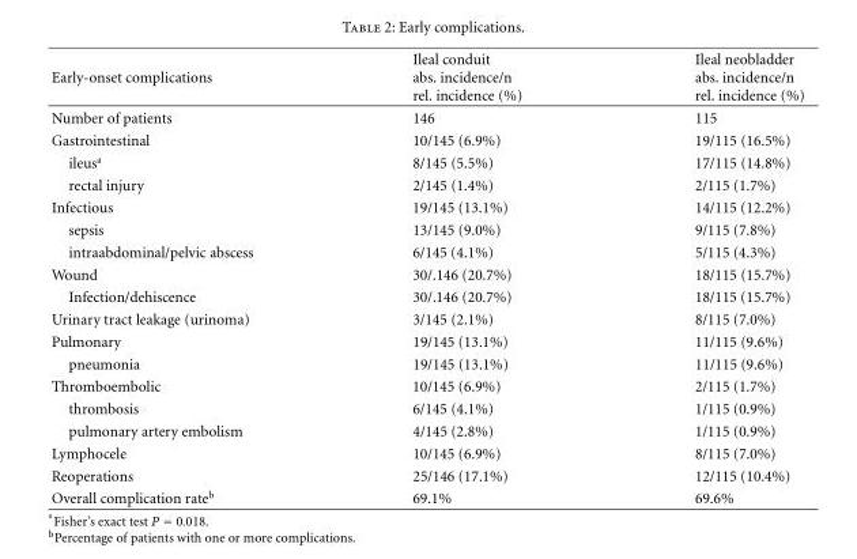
<table><thead><tr><td>Early-onset complications</td><td>Ileal conduit abs. incidence/n rel. incidence (%)</td><td>Ileal neobladder abs. incidence/n rel. incidence (%)</td></tr></thead><tbody><tr><td>Number of patients</td><td>146</td><td>115</td></tr><tr><td>Gastrointestinal</td><td>10/145 (6.9%)</td><td>19/115 (16.5%)</td></tr><tr><td>ileus<sup>a</sup></td><td>8/145 (5.5%)</td><td>17/115 (14.8%)</td></tr><tr><td>rectal injury</td><td>2/145 (1.4%)</td><td>2/115 (1.7%)</td></tr><tr><td>Infectious</td><td>19/145 (13.1%)</td><td>14/115 (12.2%)</td></tr><tr><td>sepsis</td><td>13/145 (9.0%)</td><td>9/115 (7.8%)</td></tr><tr><td>intraabdominal/pelvic abscess</td><td>6/145 (4.1%)</td><td>5/115 (4.3%)</td></tr><tr><td>Wound</td><td>30/.146 (20.7%)</td><td>18/115 (15.7%)</td></tr><tr><td>Infection/dehiscence</td><td>30/.146 (20.7%)</td><td>18/115 (15.7%)</td></tr><tr><td>Urinary tract leakage (urinoma)</td><td>3/145 (2.1%)</td><td>8/115 (7.0%)</td></tr><tr><td>Pulmonary</td><td>19/145 (13.1%)</td><td>11/115 (9.6%)</td></tr><tr><td>pneumonia</td><td>19/145 (13.1%)</td><td>11/115 (9.6%)</td></tr><tr><td>Thromboembolic</td><td>10/145 (6.9%)</td><td>2/115 (1.7%)</td></tr><tr><td>thrombosis</td><td>6/145 (4.1%)</td><td>1/115 (0.9%)</td></tr><tr><td>pulmonary artery embolism</td><td>4/145 (2.8%)</td><td>1/115 (0.9%)</td></tr><tr><td>Lymphocele</td><td>10/145 (6.9%)</td><td>8/115 (7.0%)</td></tr><tr><td>Reoperations</td><td>25/146 (17.1%)</td><td>12/115 (10.4%)</td></tr><tr><td>Overall complication rate<sup>b</sup></td><td>69.1%</td><td>69.6%</td></tr></tbody></table>